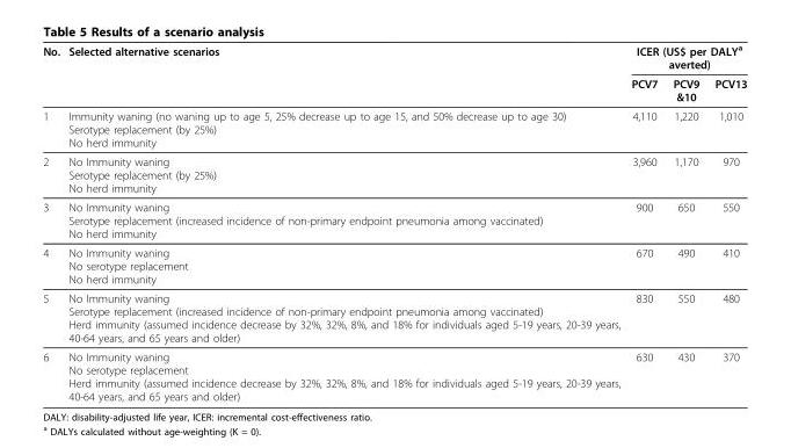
<table><thead><tr><td rowspan="2">No.</td><td rowspan="2">Selected alternative scenarios</td><td colspan="3">ICER (US$ per DALY<sup>a</sup> averted)</td></tr><tr><td>PCV7</td><td>PCV9 &amp;10</td><td>PCV13</td></tr></thead><tbody><tr><td>1</td><td>Immunity waning (no waning up to age 5, 25% decrease up to age 15, and 50% decrease up to age 30) Serotype replacement (by 25%) No herd immunity</td><td>4,110</td><td>1,220</td><td>1,010</td></tr><tr><td>2</td><td>No Immunity waning Serotype replacement (by 25%) No herd immunity</td><td>3,960</td><td>1,170</td><td>970</td></tr><tr><td>3</td><td>No Immunity waning Serotype replacement (increased incidence of non-primary endpoint pneumonia among vaccinated) No herd immunity</td><td>900</td><td>650</td><td>550</td></tr><tr><td>4</td><td>No Immunity waning No serotype replacement No herd immunity</td><td>670</td><td>490</td><td>410</td></tr><tr><td>5</td><td>No Immunity waning Serotype replacement (increased incidence of non-primary endpoint pneumonia among vaccinated) Herd immunity (assumed incidence decrease by 32%, 32%, 8%, and 18% for individuals aged 5-19 years, 20-39 years, 40-64 years, and 65 years and older)</td><td>830</td><td>550</td><td>480</td></tr><tr><td>6</td><td>No Immunity waning No serotype replacement Herd immunity (assumed incidence decrease by 32%, 32%, 8%, and 18% for individuals aged 5-19 years, 20-39 years, 40-64 years, and 65 years and older)</td><td>630</td><td>430</td><td>370</td></tr></tbody></table>